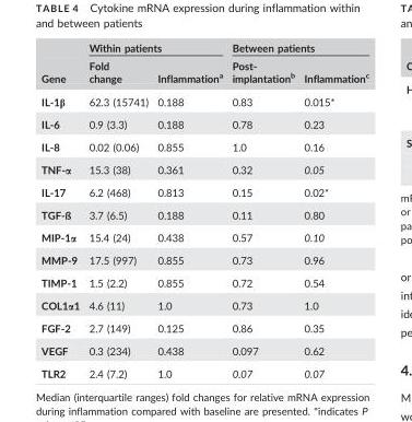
<table><thead><tr><td rowspan="2">Gene</td><td colspan="2">Within patients</td><td colspan="2">Between patients</td></tr><tr><td>Fold change</td><td>Inflammation<sup>a</sup></td><td>Post- implantation<sup>b</sup></td><td>Inflammation<sup>c</sup></td></tr></thead><tbody><tr><td>IL-1β</td><td>62.3 (15741)</td><td>0.188</td><td>0.83</td><td>0.015*</td></tr><tr><td>IL-6</td><td>0.9 (3.3)</td><td>0.188</td><td>0.78</td><td>0.23</td></tr><tr><td>IL-8</td><td>0.02 (0.06)</td><td>0.855</td><td>1.0</td><td>0.16</td></tr><tr><td>TNF-α</td><td>15.3 (38)</td><td>0.361</td><td>0.32</td><td>0.05</td></tr><tr><td>IL-17</td><td>6.2 (468)</td><td>0.813</td><td>0.15</td><td>0.02*</td></tr><tr><td>TGF-ß</td><td>3.7 (6.5)</td><td>0.188</td><td>0.11</td><td>0.80</td></tr><tr><td>MIP-1α</td><td>15.4 (24)</td><td>0.438</td><td>0.57</td><td>0.10</td></tr><tr><td>MMP-9</td><td>17.5 (997)</td><td>0.855</td><td>0.73</td><td>0.96</td></tr><tr><td>TIMP-1</td><td>1.5 (2.2)</td><td>0.855</td><td>0.72</td><td>0.54</td></tr><tr><td>COL1α1</td><td>4.6 (11)</td><td>1.0</td><td>0.73</td><td>1.0</td></tr><tr><td>FGF-2</td><td>2.7 (149)</td><td>0.125</td><td>0.86</td><td>0.35</td></tr><tr><td>VEGF</td><td>0.3 (234)</td><td>0.438</td><td>0.097</td><td>0.62</td></tr><tr><td>TLR2</td><td>2.4 (7.2)</td><td>1.0</td><td>0.07</td><td>0.07</td></tr></tbody></table>